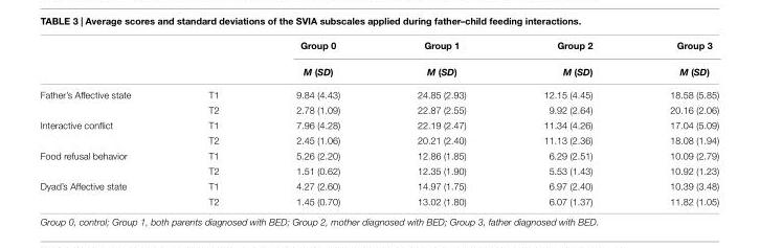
<table><thead><tr><td rowspan="2"></td><td rowspan="2"></td><td rowspan="2">Group 0 M (SD)</td><td rowspan="2">Group 1 M (SD)</td><td rowspan="2">Group 2 M (SD)</td><td rowspan="2">Group 3 M (SD)</td></tr><tr></tr></thead><tbody><tr><td rowspan="2">Father’s Affective state</td><td>T1</td><td>9.84 (4.43)</td><td>24.85 (2.93)</td><td>12.15 (4.45)</td><td>18.58 (5.85)</td></tr><tr><td>T2</td><td>2.78 (1.09)</td><td>22.87 (2.55)</td><td>9.92 (2.64)</td><td>20.16 (2.06)</td></tr><tr><td rowspan="2">Interactive conflict</td><td>T1</td><td>7.96 (4.28)</td><td>22.19 (2.47)</td><td>11.34 (4.26)</td><td>17.04 (5.09)</td></tr><tr><td>T2</td><td>2.45 (1.06)</td><td>20.21 (2.40)</td><td>11.13 (2.36)</td><td>18.08 (1.94)</td></tr><tr><td rowspan="2">Food refusal behavior</td><td>T1</td><td>5.26 (2.20)</td><td>12.86 (1.85)</td><td>6.29 (2.51)</td><td>10.09 (2.79)</td></tr><tr><td>T2</td><td>1.51 (0.62)</td><td>12.35 (1.90)</td><td>5.53 (1.43)</td><td>10.92 (1.23)</td></tr><tr><td rowspan="2">Dyad’s Affective state</td><td>T1</td><td>4.27 (2.60)</td><td>14.97 (1.75)</td><td>6.97 (2.40)</td><td>10.39 (3.48)</td></tr><tr><td>T2</td><td>1.45 (0.70)</td><td>13.02 (1.80)</td><td>6.07 (1.37)</td><td>11.82 (1.05)</td></tr></tbody></table>